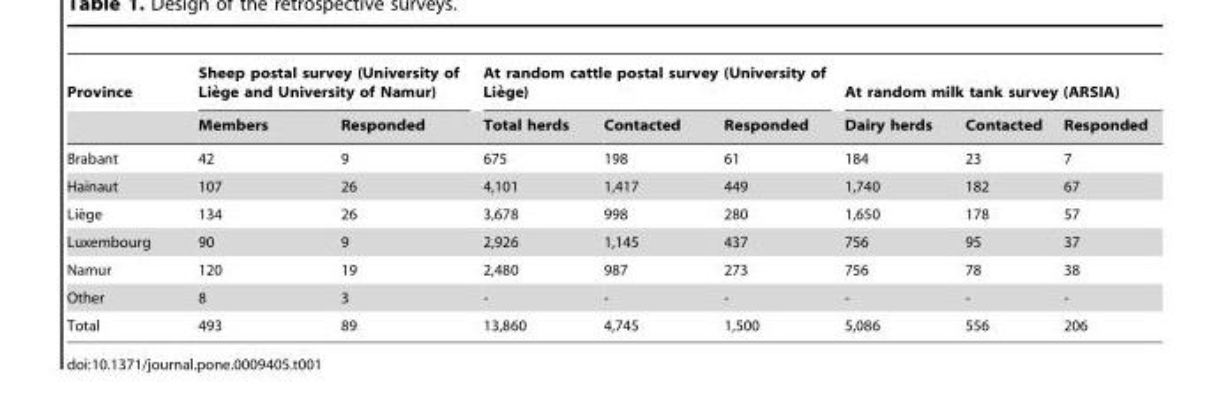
<table><thead><tr><td rowspan="2">Province</td><td colspan="2">Sheep postal survey (University of Lie`ge and University of Namur)</td><td colspan="3">At random cattle postal survey (University of Lie`ge)</td><td colspan="3">At random milk tank survey (ARSIA)</td></tr><tr><td>Members</td><td>Responded</td><td>Total herds</td><td>Contacted</td><td>Responded</td><td>Dairy herds</td><td>Contacted</td><td>Responded</td></tr></thead><tbody><tr><td>Brabant</td><td>42</td><td>9</td><td>675</td><td>198</td><td>61</td><td>184</td><td>23</td><td>7</td></tr><tr><td>Hainaut</td><td>107</td><td>26</td><td>4,101</td><td>1,417</td><td>449</td><td>1,740</td><td>182</td><td>67</td></tr><tr><td>Lie`ge</td><td>134</td><td>26</td><td>3,678</td><td>998</td><td>280</td><td>1,650</td><td>178</td><td>57</td></tr><tr><td>Luxembourg</td><td>90</td><td>9</td><td>2,926</td><td>1,145</td><td>437</td><td>756</td><td>95</td><td>37</td></tr><tr><td>Namur</td><td>120</td><td>19</td><td>2,480</td><td>987</td><td>273</td><td>756</td><td>78</td><td>38</td></tr><tr><td>Other</td><td>8</td><td>3</td><td>-</td><td>-</td><td>-</td><td>-</td><td>-</td><td>-</td></tr><tr><td>Total</td><td>493</td><td>89</td><td>13,860</td><td>4,745</td><td>1,500</td><td>5,086</td><td>556</td><td>206</td></tr></tbody></table>